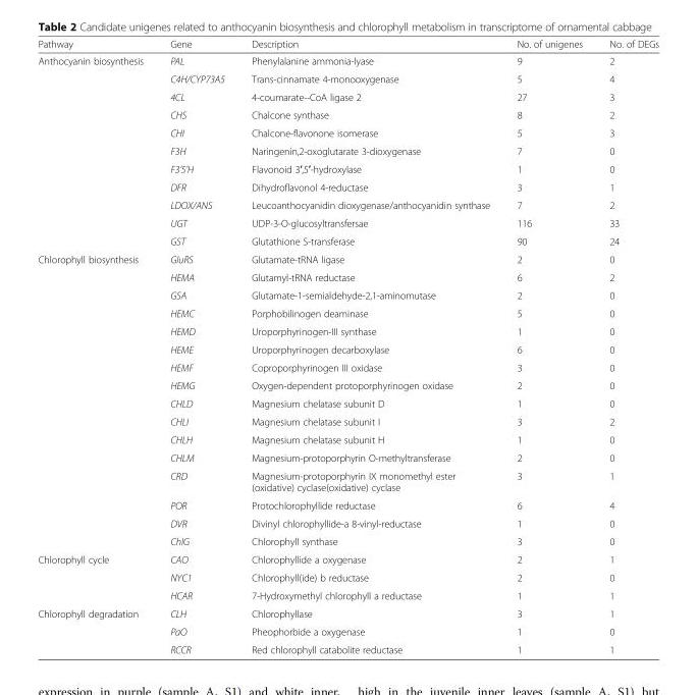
<table><thead><tr><td>Pathway</td><td>Gene</td><td>Description</td><td>No. of unigenes</td><td>No. of DEGs</td></tr></thead><tbody><tr><td rowspan="11">Anthocyanin biosynthesis</td><td>PAL</td><td>Phenylalanine ammonia-lyase</td><td>9</td><td>2</td></tr><tr><td>C4H/CYP73A5</td><td>Trans-cinnamate 4-monooxygenase</td><td>5</td><td>4</td></tr><tr><td>4CL</td><td>4-coumarate--CoA ligase 2</td><td>27</td><td>3</td></tr><tr><td>CHS</td><td>Chalcone synthase</td><td>8</td><td>2</td></tr><tr><td>CHI</td><td>Chalcone-flavonone isomerase</td><td>5</td><td>3</td></tr><tr><td>F3H</td><td>Naringenin,2-oxoglutarate 3-dioxygenase</td><td>7</td><td>0</td></tr><tr><td>F3’5’H</td><td>Flavonoid 3′,5′-hydroxylase</td><td>1</td><td>0</td></tr><tr><td>DFR</td><td>Dihydroflavonol 4-reductase</td><td>3</td><td>1</td></tr><tr><td>LDOX/ANS</td><td>Leucoanthocyanidin dioxygenase/anthocyanidin synthase</td><td>7</td><td>2</td></tr><tr><td>UGT</td><td>UDP-3-O-glucosyltransfersae</td><td>116</td><td>33</td></tr><tr><td>GST</td><td>Glutathione S-transferase</td><td>90</td><td>24</td></tr><tr><td rowspan="16">Chlorophyll biosynthesis</td><td>GluRS</td><td>Glutamate-tRNA ligase</td><td>2</td><td>0</td></tr><tr><td>HEMA</td><td>Glutamyl-tRNA reductase</td><td>6</td><td>2</td></tr><tr><td>GSA</td><td>Glutamate-1-semialdehyde-2,1-aminomutase</td><td>2</td><td>0</td></tr><tr><td>HEMC</td><td>Porphobilinogen deaminase</td><td>5</td><td>0</td></tr><tr><td>HEMD</td><td>Uroporphyrinogen-III synthase</td><td>1</td><td>0</td></tr><tr><td>HEME</td><td>Uroporphyrinogen decarboxylase</td><td>6</td><td>0</td></tr><tr><td>HEMF</td><td>Coproporphyrinogen III oxidase</td><td>3</td><td>0</td></tr><tr><td>HEMG</td><td>Oxygen-dependent protoporphyrinogen oxidase</td><td>2</td><td>0</td></tr><tr><td>CHLD</td><td>Magnesium chelatase subunit D</td><td>1</td><td>0</td></tr><tr><td>CHLI</td><td>Magnesium chelatase subunit I</td><td>3</td><td>2</td></tr><tr><td>CHLH</td><td>Magnesium chelatase subunit H</td><td>1</td><td>0</td></tr><tr><td>CHLM</td><td>Magnesium-protoporphyrin O-methyltransferase</td><td>2</td><td>0</td></tr><tr><td>CRD</td><td>Magnesium-protoporphyrin IX monomethyl ester (oxidative) cyclase(oxidative) cyclase</td><td>3</td><td>1</td></tr><tr><td>POR</td><td>Protochlorophyllide reductase</td><td>6</td><td>4</td></tr><tr><td>DVR</td><td>Divinyl chlorophyllide-a 8-vinyl-reductase</td><td>1</td><td>0</td></tr><tr><td>ChlG</td><td>Chlorophyll synthase</td><td>3</td><td>0</td></tr><tr><td rowspan="3">Chlorophyll cycle</td><td>CAO</td><td>Chlorophyllide a oxygenase</td><td>2</td><td>1</td></tr><tr><td>NYC1</td><td>Chlorophyll(ide) b reductase</td><td>2</td><td>0</td></tr><tr><td>HCAR</td><td>7-Hydroxymethyl chlorophyll a reductase</td><td>1</td><td>1</td></tr><tr><td rowspan="3">Chlorophyll degradation</td><td>CLH</td><td>Chlorophyllase</td><td>3</td><td>1</td></tr><tr><td>PaO</td><td>Pheophorbide a oxygenase</td><td>1</td><td>0</td></tr><tr><td>RCCR</td><td>Red chlorophyll catabolite reductase</td><td>1</td><td>1</td></tr></tbody></table>